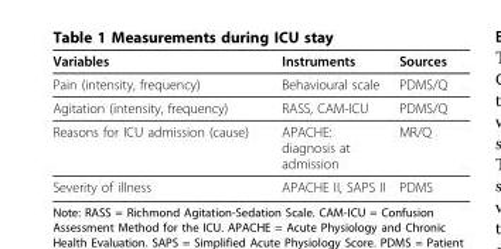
<table><thead><tr><td>Variables</td><td>Instruments</td><td>Sources</td></tr></thead><tbody><tr><td>Pain (intensity, frequency)</td><td>Behavioural scale</td><td>PDMS/Q</td></tr><tr><td>Agitation (intensity, frequency)</td><td>RASS, CAM-ICU</td><td>PDMS/Q</td></tr><tr><td>Reasons for ICU admission (cause)</td><td>APACHE: diagnosis at admission</td><td>MR/Q</td></tr><tr><td>Severity of illness</td><td>APACHE II, SAPS II</td><td>PDMS</td></tr></tbody></table>